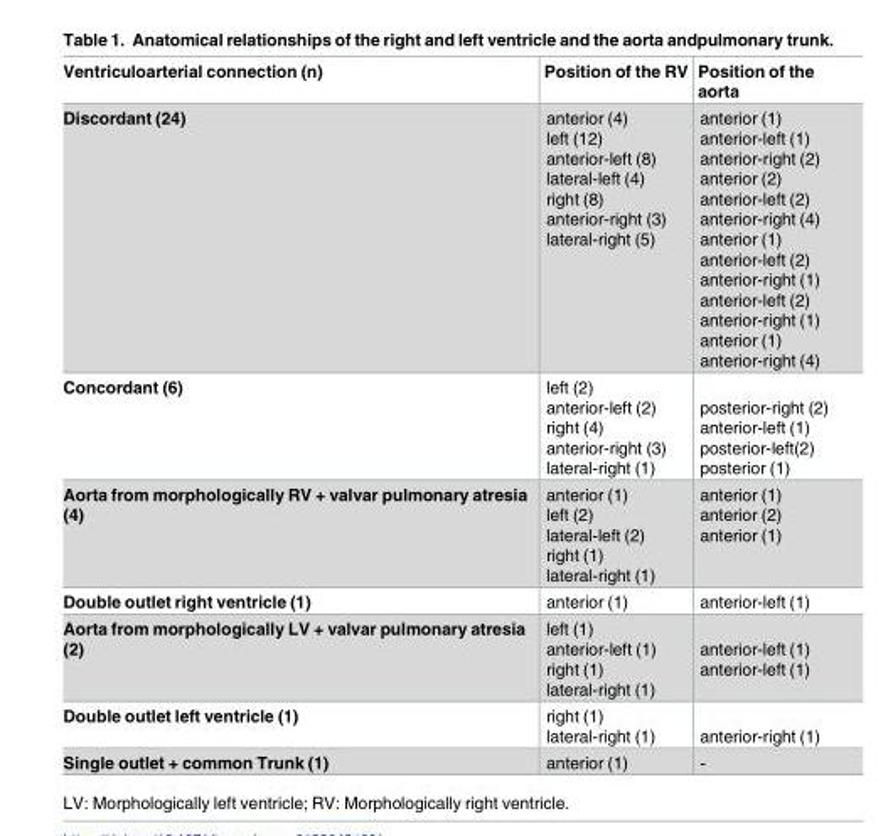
<table><thead><tr><td>Ventriculoarterial connection (n)</td><td>Position of the RV</td><td>Position of the aorta</td></tr></thead><tbody><tr><td>Discordant (24)</td><td>anterior (4) left (12) anterior-left (8) lateral-left (4) right (8) anterior-right (3) lateral-right (5)</td><td>anterior (1) anterior-left (1) anterior-right (2) anterior (2) anterior-left (2) anterior-right (4) anterior (1) anterior-left (2) anterior-right (1) anterior-left (2) anterior-right (1) anterior (1) anterior-right (4)</td></tr><tr><td>Concordant (6)</td><td>left (2) anterior-left (2) right (4) anterior-right (3) lateral-right (1)</td><td>posterior-right (2) anterior-left (1) posterior-left(2) posterior (1)</td></tr><tr><td>Aorta from morphologically RV + valvar pulmonary atresia (4)</td><td>anterior (1) left (2) lateral-left (2) right (1) lateral-right (1)</td><td>anterior (1) anterior (2) anterior (1)</td></tr><tr><td>Double outlet right ventricle (1)</td><td>anterior (1)</td><td>anterior-left (1)</td></tr><tr><td>Aorta from morphologically LV + valvar pulmonary atresia (2)</td><td>left (1) anterior-left (1) right (1) lateral-right (1)</td><td>anterior-left (1) anterior-left (1)</td></tr><tr><td>Double outlet left ventricle (1)</td><td>right (1) lateral-right (1)</td><td>anterior-right (1)</td></tr><tr><td>Single outlet + common Trunk (1)</td><td>anterior (1)</td><td>-</td></tr></tbody></table>